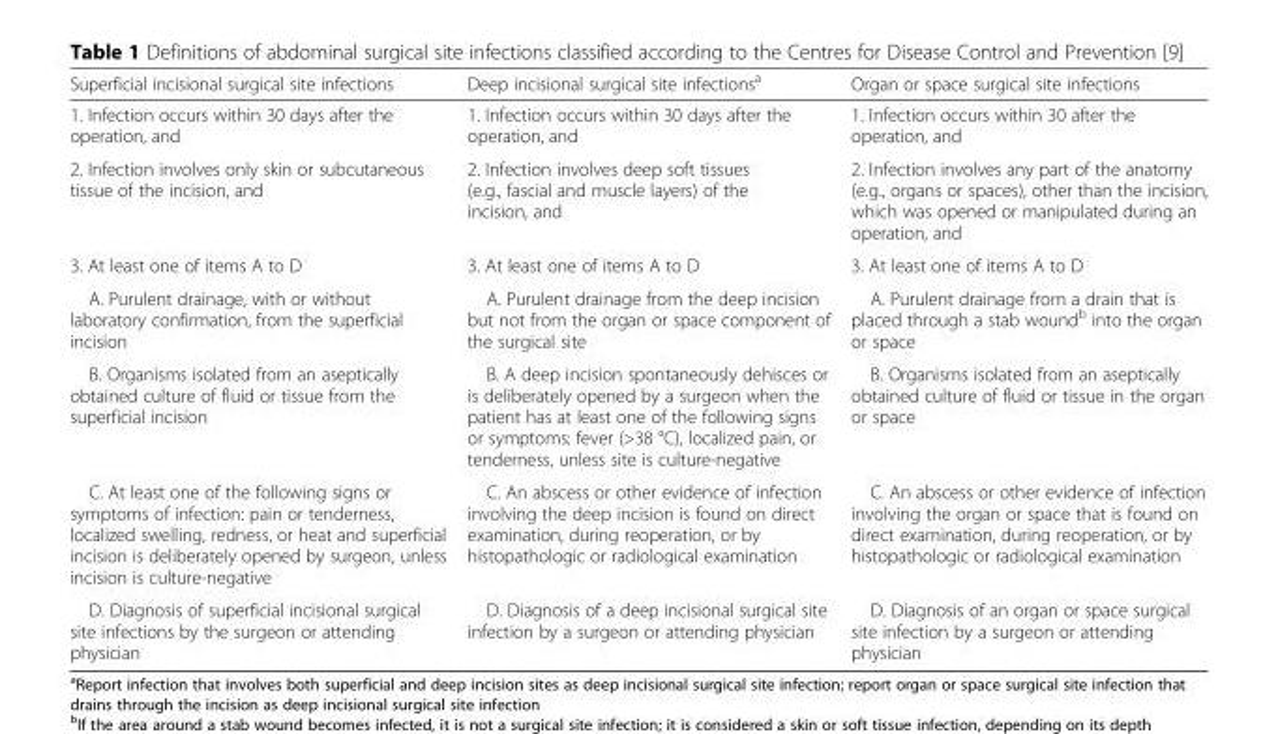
<table><thead><tr><td>Superficial incisional surgical site infections</td><td>Deep incisional surgical site infections<sup>a</sup></td><td>Organ or space surgical site infections</td></tr></thead><tbody><tr><td>1. Infection occurs within 30 days after the operation, and</td><td>1. Infection occurs within 30 days after the operation, and</td><td>1. Infection occurs within 30 after the operation, and</td></tr><tr><td>2. Infection involves only skin or subcutaneous tissue of the incision, and</td><td>2. Infection involves deep soft tissues (e.g., fascial and muscle layers) of the incision, and</td><td>2. Infection involves any part of the anatomy (e.g., organs or spaces), other than the incision, which was opened or manipulated during an operation, and</td></tr><tr><td>3. At least one of items A to D</td><td>3. At least one of items A to D</td><td>3. At least one of items A to D</td></tr><tr><td>A. Purulent drainage, with or without laboratory confirmation, from the superficial incision</td><td>A. Purulent drainage from the deep incision but not from the organ or space component of the surgical site</td><td>A. Purulent drainage from a drain that is placed through a stab wound<sup>b</sup> into the organ or space</td></tr><tr><td>B. Organisms isolated from an aseptically obtained culture of fluid or tissue from the superficial incision</td><td>B. A deep incision spontaneously dehisces or is deliberately opened by a surgeon when the patient has at least one of the following signs or symptoms: fever (&gt;38 °C), localized pain, or tenderness, unless site is culture-negative</td><td>B. Organisms isolated from an aseptically obtained culture of fluid or tissue in the organ or space</td></tr><tr><td>C. At least one of the following signs or symptoms of infection: pain or tenderness, localized swelling, redness, or heat and superficial incision is deliberately opened by surgeon, unless incision is culture-negative</td><td>C. An abscess or other evidence of infection involving the deep incision is found on direct examination, during reoperation, or by histopathologic or radiological examination</td><td>C. An abscess or other evidence of infection involving the organ or space that is found on direct examination, during reoperation, or by histopathologic or radiological examination</td></tr><tr><td>D. Diagnosis of superficial incisional surgical site infections by the surgeon or attending physician</td><td>D. Diagnosis of a deep incisional surgical site infection by a surgeon or attending physician</td><td>D. Diagnosis of an organ or space surgical site infection by a surgeon or attending physician</td></tr></tbody></table>